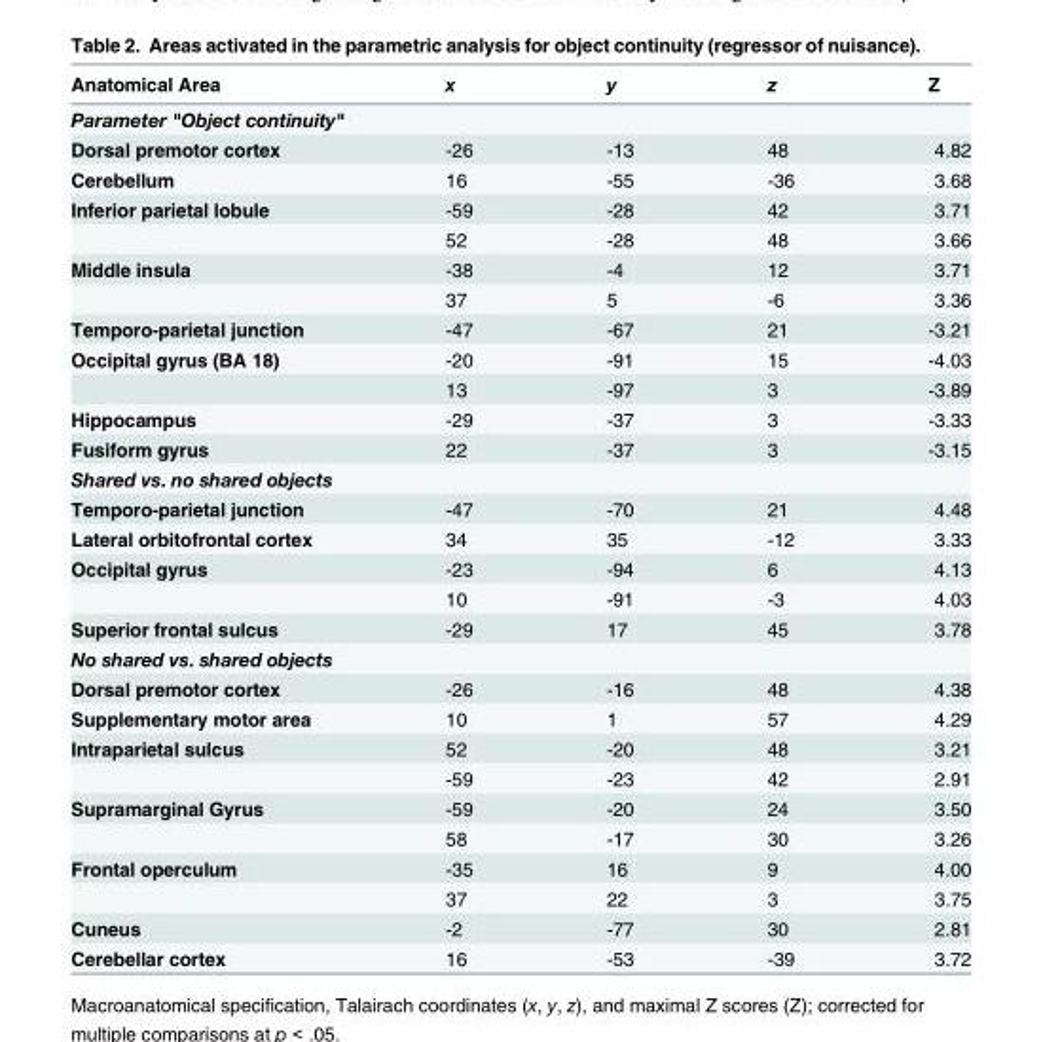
<table><thead><tr><td>Anatomical Area</td><td>x</td><td>y</td><td>z</td><td>Z</td></tr></thead><tbody><tr><td colspan="5">Parameter &quot;Object continuity&quot;</td></tr><tr><td>Dorsal premotor cortex</td><td>-26</td><td>-13</td><td>48</td><td>4.82</td></tr><tr><td>Cerebellum</td><td>16</td><td>-55</td><td>-36</td><td>3.68</td></tr><tr><td rowspan="2">Inferior parietal lobule</td><td>-59</td><td>-28</td><td>42</td><td>3.71</td></tr><tr><td>52</td><td>-28</td><td>48</td><td>3.66</td></tr><tr><td rowspan="2">Middle insula</td><td>-38</td><td>-4</td><td>12</td><td>3.71</td></tr><tr><td>37</td><td>5</td><td>-6</td><td>3.36</td></tr><tr><td>Temporo-parietal junction</td><td>-47</td><td>-67</td><td>21</td><td>-3.21</td></tr><tr><td rowspan="2">Occipital gyrus (BA 18)</td><td>-20</td><td>-91</td><td>15</td><td>-4.03</td></tr><tr><td>13</td><td>-97</td><td>3</td><td>-3.89</td></tr><tr><td>Hippocampus</td><td>-29</td><td>-37</td><td>3</td><td>-3.33</td></tr><tr><td>Fusiform gyrus</td><td>22</td><td>-37</td><td>3</td><td>-3.15</td></tr><tr><td colspan="5">Shared vs. no shared objects</td></tr><tr><td>Temporo-parietal junction</td><td>-47</td><td>-70</td><td>21</td><td>4.48</td></tr><tr><td>Lateral orbitofrontal cortex</td><td>34</td><td>35</td><td>-12</td><td>3.33</td></tr><tr><td rowspan="2">Occipital gyrus</td><td>-23</td><td>-94</td><td>6</td><td>4.13</td></tr><tr><td>10</td><td>-91</td><td>-3</td><td>4.03</td></tr><tr><td>Superior frontal sulcus</td><td>-29</td><td>17</td><td>45</td><td>3.78</td></tr><tr><td colspan="5">No shared vs. shared objects</td></tr><tr><td>Dorsal premotor cortex</td><td>-26</td><td>-16</td><td>48</td><td>4.38</td></tr><tr><td>Supplementary motor area</td><td>10</td><td>1</td><td>57</td><td>4.29</td></tr><tr><td rowspan="2">Intraparietal sulcus</td><td>52</td><td>-20</td><td>48</td><td>3.21</td></tr><tr><td>-59</td><td>-23</td><td>42</td><td>2.91</td></tr><tr><td rowspan="2">Supramarginal Gyrus</td><td>-59</td><td>-20</td><td>24</td><td>3.50</td></tr><tr><td>58</td><td>-17</td><td>30</td><td>3.26</td></tr><tr><td rowspan="2">Frontal operculum</td><td>-35</td><td>16</td><td>9</td><td>4.00</td></tr><tr><td>37</td><td>22</td><td>3</td><td>3.75</td></tr><tr><td>Cuneus</td><td>-2</td><td>-77</td><td>30</td><td>2.81</td></tr><tr><td>Cerebellar cortex</td><td>16</td><td>-53</td><td>-39</td><td>3.72</td></tr></tbody></table>